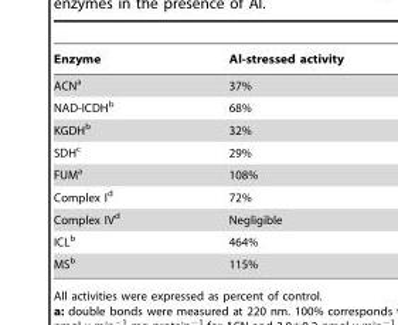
<table><thead><tr><td>Enzyme</td><td>Al-stressed activity</td></tr></thead><tbody><tr><td>ACN<sup>a</sup></td><td>37%</td></tr><tr><td>NAD-ICDH<sup>b</sup></td><td>68%</td></tr><tr><td>KGDH<sup>b</sup></td><td>32%</td></tr><tr><td>SDH<sup>c</sup></td><td>29%</td></tr><tr><td>FUM<sup>a</sup></td><td>108%</td></tr><tr><td>Complex I<sup>d</sup></td><td>72%</td></tr><tr><td>Complex IV<sup>d</sup></td><td>Negligible</td></tr><tr><td>ICL<sup>b</sup></td><td>464%</td></tr><tr><td>MS<sup>b</sup></td><td>115%</td></tr></tbody></table>